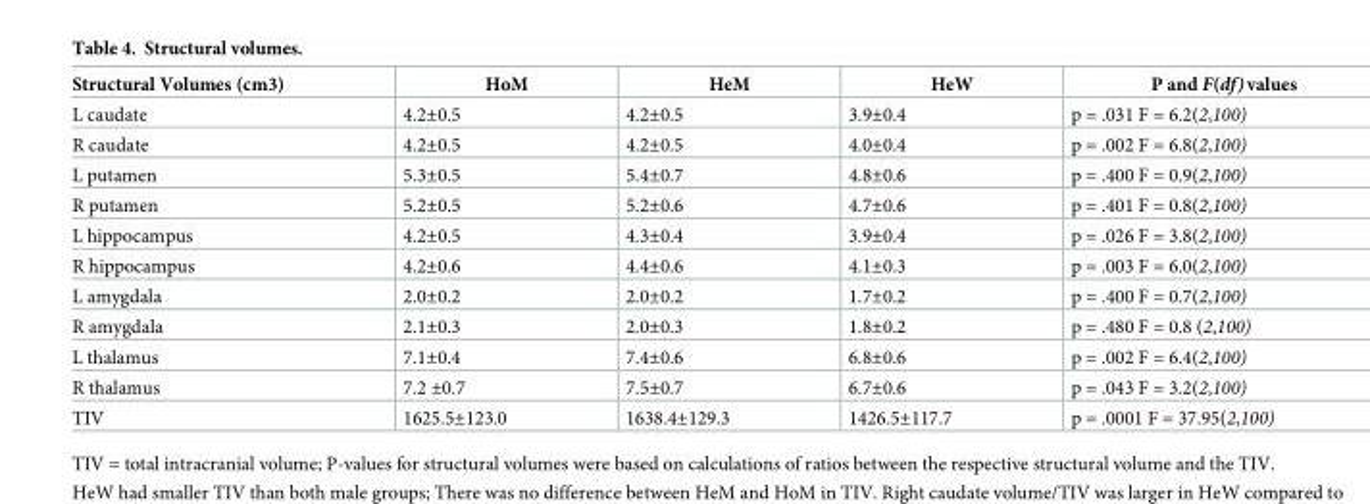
<table><thead><tr><td>Structural Volumes (cm3)</td><td>HoM</td><td>HeM</td><td>HeW</td><td>P and F(df)values</td></tr></thead><tbody><tr><td>L caudate</td><td>4.2±0.5</td><td>4.2±0.5</td><td>3.9±0.4</td><td>p = .031 F = 6.2(2,100)</td></tr><tr><td>R caudate</td><td>4.2±0.5</td><td>4.2±0.5</td><td>4.0±0.4</td><td>p = .002 F = 6.8(2,100)</td></tr><tr><td>L putamen</td><td>5.3±0.5</td><td>5.4±0.7</td><td>4.8±0.6</td><td>p = .400 F = 0.9(2,100)</td></tr><tr><td>R putamen</td><td>5.2±0.5</td><td>5.2±0.6</td><td>4.7±0.6</td><td>p = .401 F = 0.8(2,100)</td></tr><tr><td>L hippocampus</td><td>4.2±0.5</td><td>4.3±0.4</td><td>3.9±0.4</td><td>p = .026 F = 3.8(2,100)</td></tr><tr><td>R hippocampus</td><td>4.2±0.6</td><td>4.4±0.6</td><td>4.1±0.3</td><td>p = .003 F = 6.0(2,100)</td></tr><tr><td>L amygdala</td><td>2.0±0.2</td><td>2.0±0.2</td><td>1.7±0.2</td><td>p = .400 F = 0.7(2,100)</td></tr><tr><td>R amygdala</td><td>2.1±0.3</td><td>2.0±0.3</td><td>1.8±0.2</td><td>p = .480 F = 0.8 (2,100)</td></tr><tr><td>L thalamus</td><td>7.1±0.4</td><td>7.4±0.6</td><td>6.8±0.6</td><td>p = .002 F = 6.4(2,100)</td></tr><tr><td>R thalamus</td><td>7.2 ±0.7</td><td>7.5±0.7</td><td>6.7±0.6</td><td>p = .043 F = 3.2(2,100)</td></tr><tr><td>TIV</td><td>1625.5±123.0</td><td>1638.4±129.3</td><td>1426.5±117.7</td><td>p = .0001 F = 37.95(2,100)</td></tr></tbody></table>